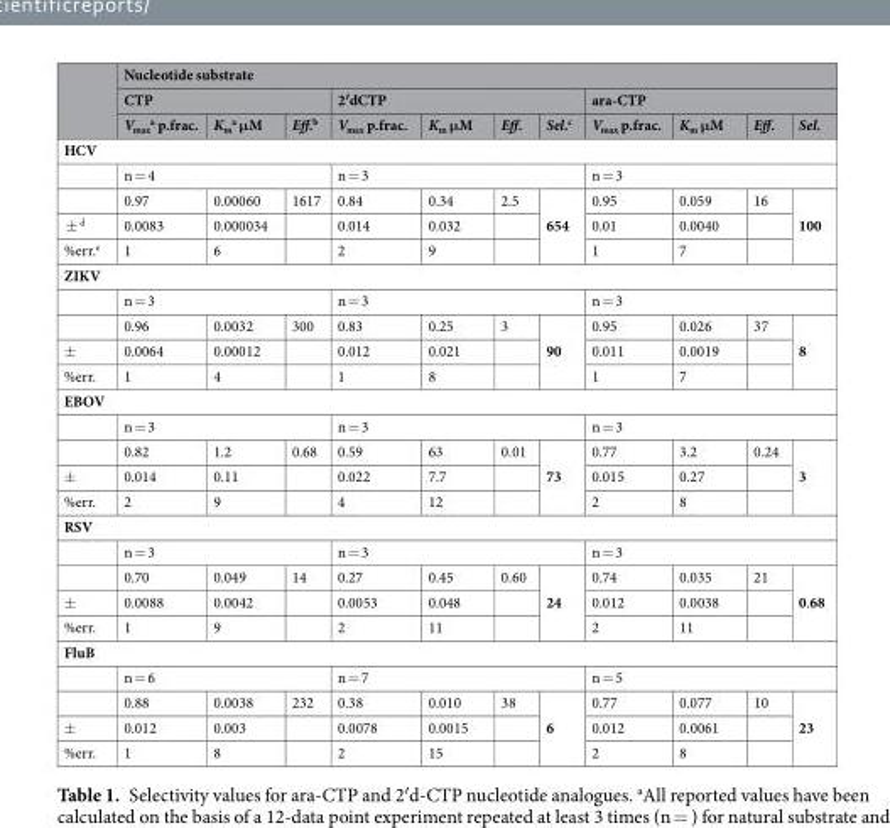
<table><thead><tr><td rowspan="3"></td><td colspan="11">Nucleotide substrate</td></tr><tr><td colspan="3">CTP</td><td colspan="4">2′dCTP</td><td colspan="4">ara-CTP</td></tr><tr><td>V<sub>max</sub> <sup>a</sup> p.frac.</td><td>K<sub>m</sub> <sup>a</sup> μM</td><td>Eff.<sup>b</sup></td><td>V<sub>max</sub> p.frac.</td><td>K<sub>m</sub> μM</td><td>Eff.</td><td>Sel.<sup>c</sup></td><td>V<sub>max</sub> p.frac.</td><td>K<sub>m</sub> μM</td><td>Eff.</td><td>Sel.</td></tr></thead><tbody><tr><td colspan="12">HCV</td></tr><tr><td></td><td colspan="3">n = 4</td><td colspan="4">n = 3</td><td colspan="4">n = 3</td></tr><tr><td></td><td>0.97</td><td>0.00060</td><td>1617</td><td>0.84</td><td>0.34</td><td>2.5</td><td rowspan="3">654</td><td>0.95</td><td>0.059</td><td>16</td><td rowspan="3">100</td></tr><tr><td>± <sup>d</sup></td><td>0.0083</td><td>0.000034</td><td></td><td>0.014</td><td>0.032</td><td></td><td>0.01</td><td>0.0040</td><td></td></tr><tr><td>%err.<sup>e</sup></td><td>1</td><td>6</td><td></td><td>2</td><td>9</td><td></td><td>1</td><td>7</td><td></td></tr><tr><td colspan="12">ZIKV</td></tr><tr><td></td><td colspan="3">n = 3</td><td colspan="4">n = 3</td><td colspan="4">n = 3</td></tr><tr><td></td><td>0.96</td><td>0.0032</td><td>300</td><td>0.83</td><td>0.25</td><td>3</td><td rowspan="3">90</td><td>0.95</td><td>0.026</td><td>37</td><td rowspan="3">8</td></tr><tr><td>±</td><td>0.0064</td><td>0.00012</td><td></td><td>0.012</td><td>0.021</td><td></td><td>0.011</td><td>0.0019</td><td></td></tr><tr><td>%err.</td><td>1</td><td>4</td><td></td><td>1</td><td>8</td><td></td><td>1</td><td>7</td><td></td></tr><tr><td colspan="12">EBOV</td></tr><tr><td></td><td colspan="3">n = 3</td><td colspan="4">n = 3</td><td colspan="4">n = 3</td></tr><tr><td></td><td>0.82</td><td>1.2</td><td>0.68</td><td>0.59</td><td>63</td><td>0.01</td><td rowspan="3">73</td><td>0.77</td><td>3.2</td><td>0.24</td><td rowspan="3">3</td></tr><tr><td>±</td><td>0.014</td><td>0.11</td><td></td><td>0.022</td><td>7.7</td><td></td><td>0.015</td><td>0.27</td><td></td></tr><tr><td>%err.</td><td>2</td><td>9</td><td></td><td>4</td><td>12</td><td></td><td>2</td><td>8</td><td></td></tr><tr><td colspan="12">RSV</td></tr><tr><td></td><td colspan="3">n = 3</td><td colspan="4">n = 3</td><td colspan="4">n = 3</td></tr><tr><td></td><td>0.70</td><td>0.049</td><td>14</td><td>0.27</td><td>0.45</td><td>0.60</td><td rowspan="3">24</td><td>0.74</td><td>0.035</td><td>21</td><td rowspan="3">0.68</td></tr><tr><td>±</td><td>0.0088</td><td>0.0042</td><td></td><td>0.0053</td><td>0.048</td><td></td><td>0.012</td><td>0.0038</td><td></td></tr><tr><td>%err.</td><td>1</td><td>9</td><td></td><td>2</td><td>11</td><td></td><td>2</td><td>11</td><td></td></tr><tr><td colspan="12">FluB</td></tr><tr><td></td><td colspan="3">n = 6</td><td colspan="4">n = 7</td><td colspan="4">n = 5</td></tr><tr><td></td><td>0.88</td><td>0.0038</td><td>232</td><td>0.38</td><td>0.010</td><td>38</td><td rowspan="3">6</td><td>0.77</td><td>0.077</td><td>10</td><td rowspan="3">23</td></tr><tr><td>±</td><td>0.012</td><td>0.003</td><td></td><td>0.0078</td><td>0.0015</td><td></td><td>0.012</td><td>0.0061</td><td></td></tr><tr><td>%err.</td><td>1</td><td>8</td><td></td><td>2</td><td>15</td><td></td><td>2</td><td>8</td><td></td></tr></tbody></table>